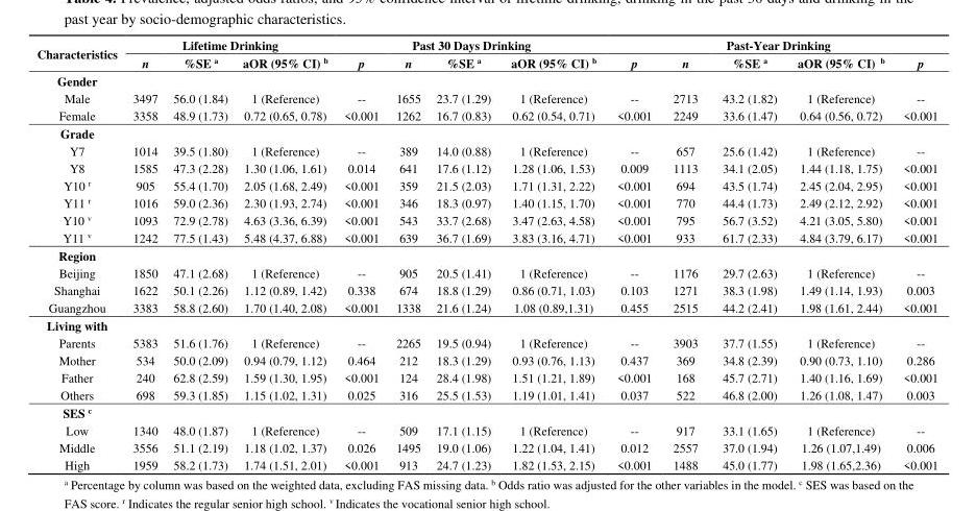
<table><thead><tr><td rowspan="2">Characteristics</td><td colspan="3">Lifetime Drinking</td><td colspan="4">Past 30 Days Drinking</td><td colspan="5">Past-Year Drinking</td></tr><tr><td>n</td><td>%SE <sup>a</sup></td><td>aOR (95% CI) <sup>b</sup></td><td>p</td><td>n</td><td>%SE <sup>a</sup></td><td>aOR (95% CI) <sup>b</sup></td><td>p</td><td>n</td><td>%SE <sup>a</sup></td><td>aOR (95% CI) <sup>b</sup></td><td>p</td></tr></thead><tbody><tr><td colspan="13">Gender</td></tr><tr><td>Male</td><td>3497</td><td>56.0 (1.84)</td><td>1 (Reference)</td><td>--</td><td>1655</td><td>23.7 (1.29)</td><td>1 (Reference)</td><td>--</td><td>2713</td><td>43.2 (1.82)</td><td>1 (Reference)</td><td>--</td></tr><tr><td>Female</td><td>3358</td><td>48.9 (1.73)</td><td>0.72 (0.65, 0.78)</td><td>&lt;0.001</td><td>1262</td><td>16.7 (0.83)</td><td>0.62 (0.54, 0.71)</td><td>&lt;0.001</td><td>2249</td><td>33.6 (1.47)</td><td>0.64 (0.56, 0.72)</td><td>&lt;0.001</td></tr><tr><td colspan="13">Grade</td></tr><tr><td>Y7</td><td>1014</td><td>39.5 (1.80)</td><td>1 (Reference)</td><td>--</td><td>389</td><td>14.0 (0.88)</td><td>1 (Reference)</td><td>--</td><td>657</td><td>25.6 (1.42)</td><td>1 (Reference)</td><td>--</td></tr><tr><td>Y8</td><td>1585</td><td>47.3 (2.28)</td><td>1.30 (1.06, 1.61)</td><td>0.014</td><td>641</td><td>17.6 (1.12)</td><td>1.28 (1.06, 1.53)</td><td>0.009</td><td>1113</td><td>34.1 (2.05)</td><td>1.44 (1.18, 1.75)</td><td>&lt;0.001</td></tr><tr><td>Y10 <sup>r</sup></td><td>905</td><td>55.4 (1.70)</td><td>2.05 (1.68, 2.49)</td><td>&lt;0.001</td><td>359</td><td>21.5 (2.03)</td><td>1.71 (1.31, 2.22)</td><td>&lt;0.001</td><td>694</td><td>43.5 (1.74)</td><td>2.45 (2.04, 2.95)</td><td>&lt;0.001</td></tr><tr><td>Y11 <sup>r</sup></td><td>1016</td><td>59.0 (2.36)</td><td>2.30 (1.93, 2.74)</td><td>&lt;0.001</td><td>346</td><td>18.3 (0.97)</td><td>1.40 (1.15, 1.70)</td><td>&lt;0.001</td><td>770</td><td>44.4 (1.73)</td><td>2.49 (2.12, 2.92)</td><td>&lt;0.001</td></tr><tr><td>Y10 <sup>v</sup></td><td>1093</td><td>72.9 (2.78)</td><td>4.63 (3.36, 6.39)</td><td>&lt;0.001</td><td>543</td><td>33.7 (2.68)</td><td>3.47 (2.63, 4.58)</td><td>&lt;0.001</td><td>795</td><td>56.7 (3.52)</td><td>4.21 (3.05, 5.80)</td><td>&lt;0.001</td></tr><tr><td>Y11 <sup>v</sup></td><td>1242</td><td>77.5 (1.43)</td><td>5.48 (4.37, 6.88)</td><td>&lt;0.001</td><td>639</td><td>36.7 (1.69)</td><td>3.83 (3.16, 4.71)</td><td>&lt;0.001</td><td>933</td><td>61.7 (2.33)</td><td>4.84 (3.79, 6.17)</td><td>&lt;0.001</td></tr><tr><td colspan="13">Region</td></tr><tr><td>Beijing</td><td>1850</td><td>47.1 (2.68)</td><td>1 (Reference)</td><td>--</td><td>905</td><td>20.5 (1.41)</td><td>1 (Reference)</td><td>--</td><td>1176</td><td>29.7 (2.63)</td><td>1 (Reference)</td><td>--</td></tr><tr><td>Shanghai</td><td>1622</td><td>50.1 (2.26)</td><td>1.12 (0.89, 1.42)</td><td>0.338</td><td>674</td><td>18.8 (1.29)</td><td>0.86 (0.71, 1.03)</td><td>0.103</td><td>1271</td><td>38.3 (1.98)</td><td>1.49 (1.14, 1.93)</td><td>0.003</td></tr><tr><td>Guangzhou</td><td>3383</td><td>58.8 (2.60)</td><td>1.70 (1.40, 2.08)</td><td>&lt;0.001</td><td>1338</td><td>21.6 (1.24)</td><td>1.08 (0.89,1.31)</td><td>0.455</td><td>2515</td><td>44.2 (2.41)</td><td>1.98 (1.61, 2.44)</td><td>&lt;0.001</td></tr><tr><td colspan="13">Living with</td></tr><tr><td>Parents</td><td>5383</td><td>51.6 (1.76)</td><td>1 (Reference)</td><td>--</td><td>2265</td><td>19.5 (0.94)</td><td>1 (Reference)</td><td>--</td><td>3903</td><td>37.7 (1.55)</td><td>1 (Reference)</td><td>--</td></tr><tr><td>Mother</td><td>534</td><td>50.0 (2.09)</td><td>0.94 (0.79, 1.12)</td><td>0.464</td><td>212</td><td>18.3 (1.29)</td><td>0.93 (0.76, 1.13)</td><td>0.437</td><td>369</td><td>34.8 (2.39)</td><td>0.90 (0.73, 1.10)</td><td>0.286</td></tr><tr><td>Father</td><td>240</td><td>62.8 (2.59)</td><td>1.59 (1.30, 1.95)</td><td>&lt;0.001</td><td>124</td><td>28.4 (1.98)</td><td>1.51 (1.21, 1.89)</td><td>&lt;0.001</td><td>168</td><td>45.7 (2.71)</td><td>1.40 (1.16, 1.69)</td><td>&lt;0.001</td></tr><tr><td>Others</td><td>698</td><td>59.3 (1.85)</td><td>1.15 (1.02, 1.31)</td><td>0.025</td><td>316</td><td>25.5 (1.53)</td><td>1.19 (1.01, 1.41)</td><td>0.037</td><td>522</td><td>46.8 (2.00)</td><td>1.26 (1.08, 1.47)</td><td>0.003</td></tr><tr><td colspan="13">SES <sup>c</sup></td></tr><tr><td>Low</td><td>1340</td><td>48.0 (1.87)</td><td>1 (Reference)</td><td>--</td><td>509</td><td>17.1 (1.15)</td><td>1 (Reference)</td><td>--</td><td>917</td><td>33.1 (1.65)</td><td>1 (Reference)</td><td>--</td></tr><tr><td>Middle</td><td>3556</td><td>51.1 (2.19)</td><td>1.18 (1.02, 1.37)</td><td>0.026</td><td>1495</td><td>19.0 (1.06)</td><td>1.22 (1.04, 1.41)</td><td>0.012</td><td>2557</td><td>37.0 (1.94)</td><td>1.26 (1.07,1.49)</td><td>0.006</td></tr><tr><td>High</td><td>1959</td><td>58.2 (1.73)</td><td>1.74 (1.51, 2.01)</td><td>&lt;0.001</td><td>913</td><td>24.7 (1.23)</td><td>1.82 (1.53, 2.15)</td><td>&lt;0.001</td><td>1488</td><td>45.0 (1.77)</td><td>1.98 (1.65,2.36)</td><td>&lt;0.001</td></tr></tbody></table>